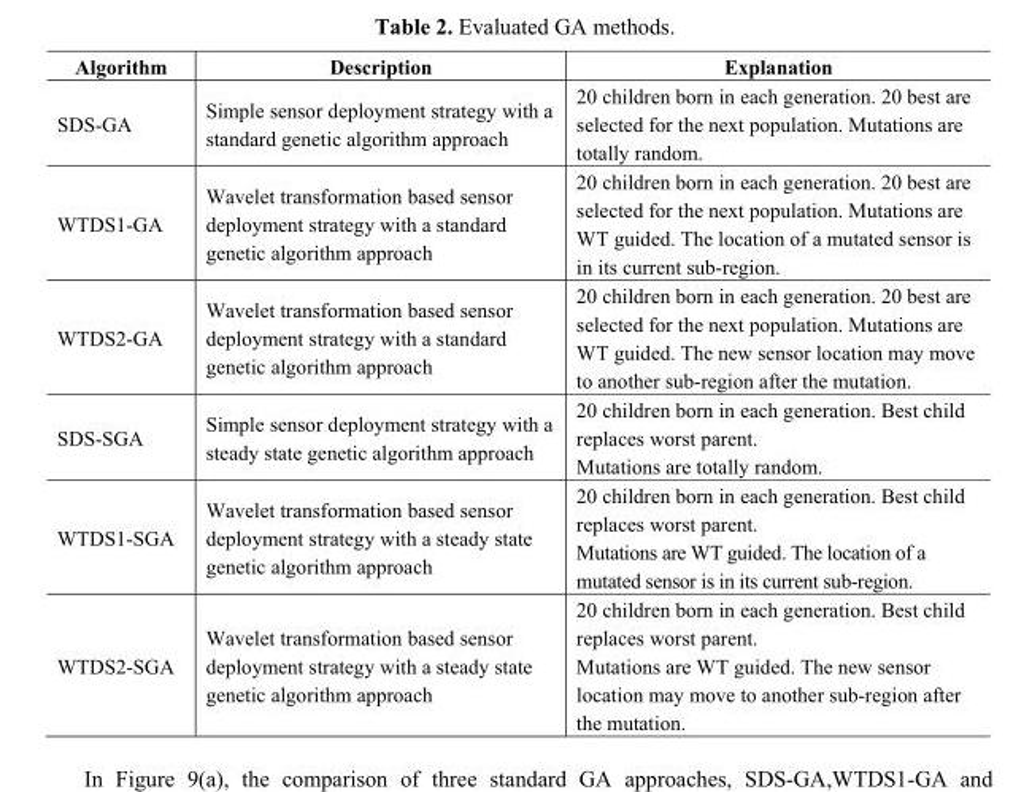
<table><thead><tr><td>Algorithm</td><td>Description</td><td>Explanation</td></tr></thead><tbody><tr><td>SDS-GA</td><td>Simple sensor deployment strategy with a standard genetic algorithm approach</td><td>20 children born in each generation. 20 best are selected for the next population. Mutations are totally random.</td></tr><tr><td>WTDS1-GA</td><td>Wavelet transformation based sensor deployment strategy with a standard genetic algorithm approach</td><td>20 children born in each generation. 20 best are selected for the next population. Mutations are WT guided. The location of a mutated sensor is in its current sub-region.</td></tr><tr><td>WTDS2-GA</td><td>Wavelet transformation based sensor deployment strategy with a standard genetic algorithm approach</td><td>20 children born in each generation. 20 best are selected for the next population. Mutations are WT guided. The new sensor location may move to another sub-region after the mutation.</td></tr><tr><td>SDS-SGA</td><td>Simple sensor deployment strategy with a steady state genetic algorithm approach</td><td>20 children born in each generation. Best child replaces worst parent. Mutations are totally random.</td></tr><tr><td>WTDS1-SGA</td><td>Wavelet transformation based sensor deployment strategy with a steady state genetic algorithm approach</td><td>20 children born in each generation. Best child replaces worst parent. Mutations are WT guided. The location of a mutated sensor is in its current sub-region.</td></tr><tr><td>WTDS2-SGA</td><td>Wavelet transformation based sensor deployment strategy with a steady state genetic algorithm approach</td><td>20 children born in each generation. Best child replaces worst parent. Mutations are WT guided. The new sensor location may move to another sub-region after the mutation.</td></tr></tbody></table>